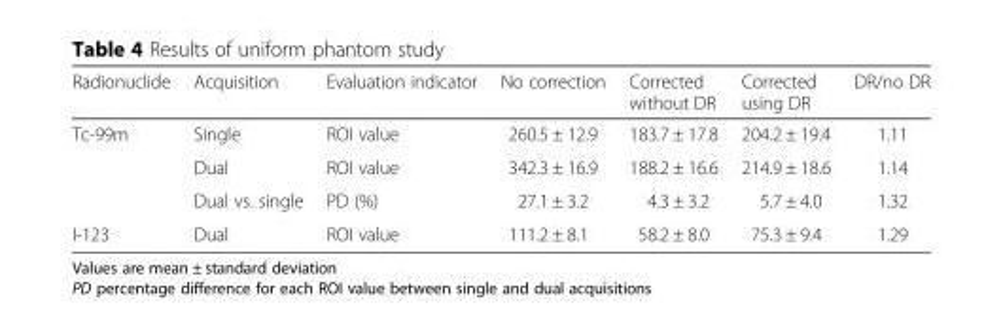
<table><thead><tr><td>Radionuclide</td><td>Acquisition</td><td>Evaluation indicator</td><td>No correction</td><td>Corrected without DR</td><td>Corrected using DR</td><td>DR/no DR</td></tr></thead><tbody><tr><td rowspan="3">Tc-99m</td><td>Single</td><td>ROI value</td><td>260.5 ± 12.9</td><td>183.7 ± 17.8</td><td>204.2 ± 19.4</td><td>1.11</td></tr><tr><td>Dual</td><td>ROI value</td><td>342.3 ± 16.9</td><td>188.2 ± 16.6</td><td>214.9 ± 18.6</td><td>1.14</td></tr><tr><td>Dual vs. single</td><td>PD (%)</td><td>27.1 ± 3.2</td><td>4.3 ± 3.2</td><td>5.7 ± 4.0</td><td>1.32</td></tr><tr><td>I-123</td><td>Dual</td><td>ROI value</td><td>111.2 ± 8.1</td><td>58.2 ± 8.0</td><td>75.3 ± 9.4</td><td>1.29</td></tr></tbody></table>